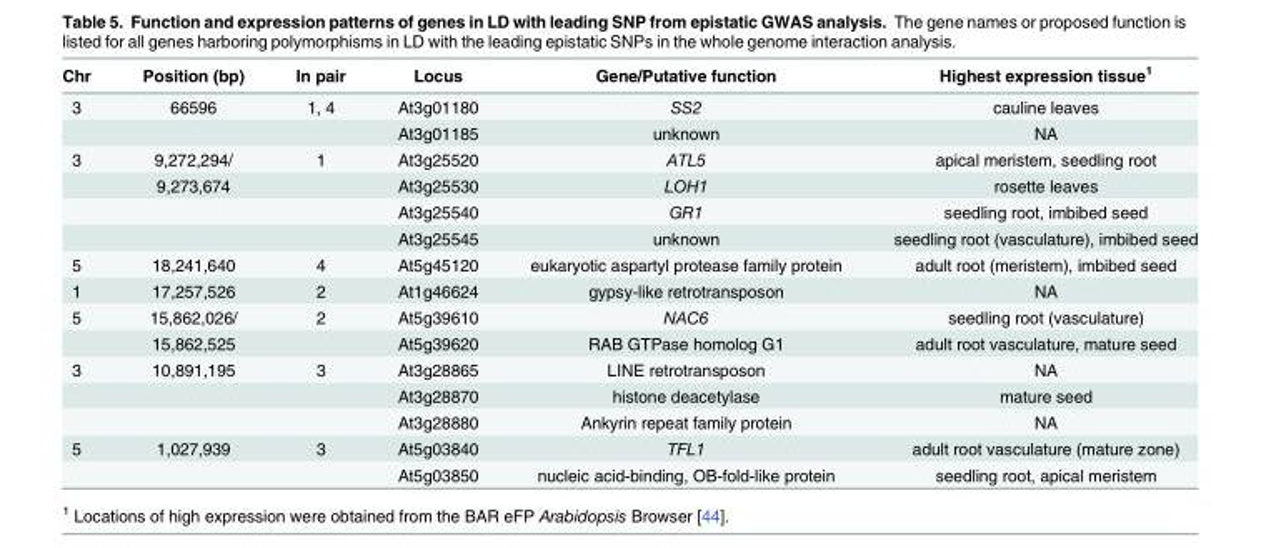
<table><thead><tr><td>Chr</td><td>Position (bp)</td><td>In pair</td><td>Locus</td><td>Gene/Putative function</td><td>Highest expression tissue<sup>1</sup></td></tr></thead><tbody><tr><td rowspan="2">3</td><td>66596</td><td>1, 4</td><td>At3g01180</td><td>SS2</td><td>cauline leaves</td></tr><tr><td></td><td></td><td>At3g01185</td><td>unknown</td><td>NA</td></tr><tr><td rowspan="4">3</td><td>9,272,294/</td><td>1</td><td>At3g25520</td><td>ATL5</td><td>apical meristem, seedling root</td></tr><tr><td>9,273,674</td><td></td><td>At3g25530</td><td>LOH1</td><td>rosette leaves</td></tr><tr><td></td><td></td><td>At3g25540</td><td>GR1</td><td>seedling root, imbibed seed</td></tr><tr><td></td><td></td><td>At3g25545</td><td>unknown</td><td>seedling root (vasculature), imbibed seed</td></tr><tr><td>5</td><td>18,241,640</td><td>4</td><td>At5g45120</td><td>eukaryotic aspartyl protease family protein</td><td>adult root (meristem), imbibed seed</td></tr><tr><td>1</td><td>17,257,526</td><td>2</td><td>At1g46624</td><td>gypsy-like retrotransposon</td><td>NA</td></tr><tr><td rowspan="2">5</td><td>15,862,026/</td><td>2</td><td>At5g39610</td><td>NAC6</td><td>seedling root (vasculature)</td></tr><tr><td>15,862,525</td><td></td><td>At5g39620</td><td>RAB GTPase homolog G1</td><td>adult root vasculature, mature seed</td></tr><tr><td rowspan="3">3</td><td>10,891,195</td><td>3</td><td>At3g28865</td><td>LINE retrotransposon</td><td>NA</td></tr><tr><td></td><td></td><td>At3g28870</td><td>histone deacetylase</td><td>mature seed</td></tr><tr><td></td><td></td><td>At3g28880</td><td>Ankyrin repeat family protein</td><td>NA</td></tr><tr><td rowspan="2">5</td><td>1,027,939</td><td>3</td><td>At5g03840</td><td>TFL1</td><td>adult root vasculature (mature zone)</td></tr><tr><td></td><td></td><td>At5g03850</td><td>nucleic acid-binding, OB-fold-like protein</td><td>seedling root, apical meristem</td></tr></tbody></table>